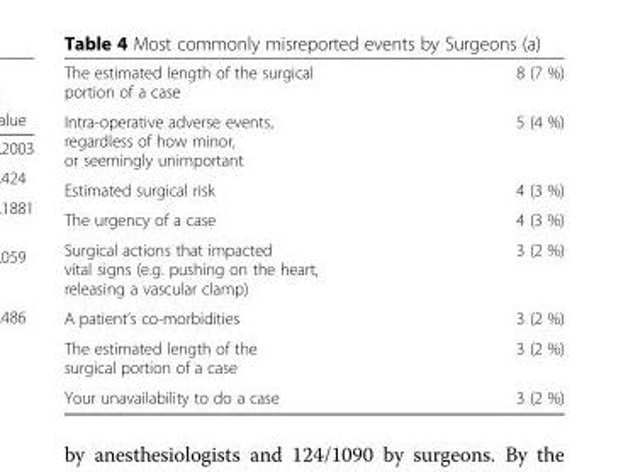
<table><tbody><tr><td>The estimated length of the surgical portion of a case</td><td>8 (7 %)</td></tr><tr><td>Intra-operative adverse events, regardless of how minor, or seemingly unimportant</td><td>5 (4 %)</td></tr><tr><td>Estimated surgical risk</td><td>4 (3 %)</td></tr><tr><td>The urgency of a case</td><td>4 (3 %)</td></tr><tr><td>Surgical actions that impacted vital signs (e.g. pushing on the heart, releasing a vascular clamp)</td><td>3 (2 %)</td></tr><tr><td>A patient’s co-morbidities</td><td>3 (2 %)</td></tr><tr><td>The estimated length of the surgical portion of a case</td><td>3 (2 %)</td></tr><tr><td>Your unavailability to do a case</td><td>3 (2 %)</td></tr></tbody></table>